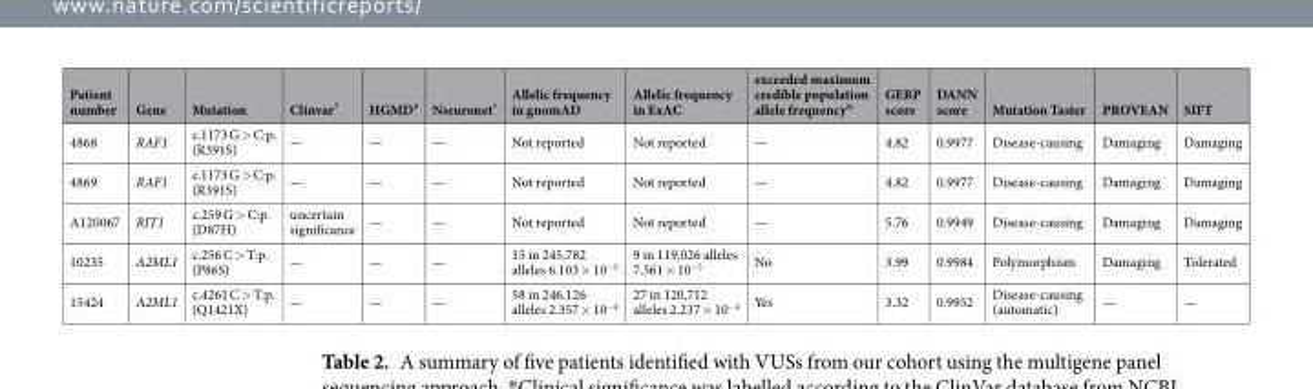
<table><thead><tr><td>Patient number</td><td>Gene</td><td>Mutation</td><td>Clinvar*</td><td>HGMD<sup>#</sup></td><td>Nseuronet<sup>^</sup></td><td>Allelic frequency in gnomAD</td><td>Allelic frequency in ExAC</td><td>exceeded maximum credible population allele frequency<sup>%</sup></td><td>GERP score</td><td>DANN score</td><td>Mutation Taster</td><td>PROVEAN</td><td>SIFT</td></tr></thead><tbody><tr><td>4868</td><td>RAF1</td><td>c.1173 G &gt; C:p. (R391S)</td><td>—</td><td>—</td><td>—</td><td>Not reported</td><td>Not reported</td><td>—</td><td>4.82</td><td>0.9977</td><td>Disease-causing</td><td>Damaging</td><td>Damaging</td></tr><tr><td>4869</td><td>RAF1</td><td>c.1173 G &gt; C:p. (R391S)</td><td>—</td><td>—</td><td>—</td><td>Not reported</td><td>Not reported</td><td>—</td><td>4.82</td><td>0.9977</td><td>Disease-causing</td><td>Damaging</td><td>Damaging</td></tr><tr><td>A120067</td><td>RIT1</td><td>c.259 G &gt; C:p. (D87H)</td><td>uncertain significance</td><td>—</td><td>—</td><td>Not reported</td><td>Not reported</td><td>—</td><td>5.76</td><td>0.9949</td><td>Disease-causing</td><td>Damaging</td><td>Damaging</td></tr><tr><td>10235</td><td>A2ML1</td><td>c.256 C &gt; T:p. (P86S)</td><td>—</td><td>—</td><td>—</td><td>15 in 245,782 alleles 6.103 × 10<sup>−5</sup></td><td>9 in 119,026 alleles 7.561 × 10<sup>−5</sup></td><td>No</td><td>3.99</td><td>0.9984</td><td>Polymorphism</td><td>Damaging</td><td>Tolerated</td></tr><tr><td>15424</td><td>A2ML1</td><td>c.4261 C &gt; T:p. (Q1421X)</td><td>—</td><td>—</td><td>—</td><td>58 in 246,126 alleles 2.357 × 10<sup>−4</sup></td><td>27 in 120,712 alleles 2.237 × 10<sup>−4</sup></td><td>Yes</td><td>3.32</td><td>0.9952</td><td>Disease-causing (automatic)</td><td>—</td><td>—</td></tr></tbody></table>